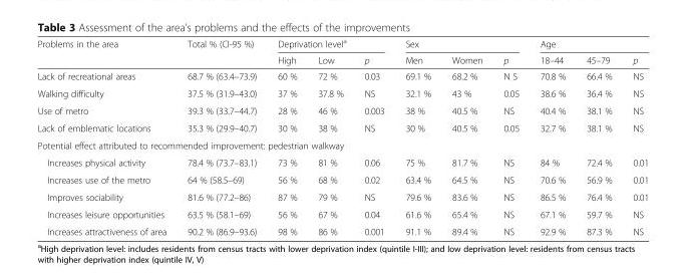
<table><thead><tr><td rowspan="2">Problems in the area</td><td rowspan="2">Total % (CI-95 %)</td><td colspan="3">Deprivation level<sup>a</sup></td><td colspan="3">Sex</td><td colspan="3">Age</td></tr><tr><td>High</td><td>Low</td><td>p</td><td>Men</td><td>Women</td><td>p</td><td>18–44</td><td>45–79</td><td>p</td></tr></thead><tbody><tr><td>Lack of recreational areas</td><td>68.7 % (63.4–73.9)</td><td>60 %</td><td>72 %</td><td>0.03</td><td>69.1 %</td><td>68.2 %</td><td>N S</td><td>70.8 %</td><td>66.4 %</td><td>NS</td></tr><tr><td>Walking difficulty</td><td>37.5 % (31.9–43.0)</td><td>37 %</td><td>37.8 %</td><td>NS</td><td>32.1 %</td><td>43 %</td><td>0.05</td><td>38.6 %</td><td>36.4 %</td><td>NS</td></tr><tr><td>Use of metro</td><td>39.3 % (33.7–44.7)</td><td>28 %</td><td>46 %</td><td>0.003</td><td>38 %</td><td>40.5 %</td><td>NS</td><td>40.4 %</td><td>38.1 %</td><td>NS</td></tr><tr><td>Lack of emblematic locations</td><td>35.3 % (29.9–40.7)</td><td>30 %</td><td>38 %</td><td>NS</td><td>30 %</td><td>40.5 %</td><td>0.05</td><td>32.7 %</td><td>38.1 %</td><td>NS</td></tr><tr><td colspan="11">Potential effect attributed to recommended improvement: pedestrian walkway</td></tr><tr><td>Increases physical activity</td><td>78.4 % (73.7–83.1)</td><td>73 %</td><td>81 %</td><td>0.06</td><td>75 %</td><td>81.7 %</td><td>NS</td><td>84 %</td><td>72.4 %</td><td>0.01</td></tr><tr><td>Increases use of the metro</td><td>64 % (58.5–69)</td><td>56 %</td><td>68 %</td><td>0.02</td><td>63.4 %</td><td>64.5 %</td><td>NS</td><td>70.6 %</td><td>56.9 %</td><td>0.01</td></tr><tr><td>Improves sociability</td><td>81.6 % (77.2–86)</td><td>87 %</td><td>79 %</td><td>NS</td><td>79.6 %</td><td>83.6 %</td><td>NS</td><td>86.5 %</td><td>76.4 %</td><td>0.01</td></tr><tr><td>Increases leisure opportunities</td><td>63.5 % (58.1–69)</td><td>56 %</td><td>67 %</td><td>0.04</td><td>61.6 %</td><td>65.4 %</td><td>NS</td><td>67.1 %</td><td>59.7 %</td><td>NS</td></tr><tr><td>Increases attractiveness of area</td><td>90.2 % (86.9–93.6)</td><td>98 %</td><td>86 %</td><td>0.001</td><td>91.1 %</td><td>89.4 %</td><td>NS</td><td>92.9 %</td><td>87.3 %</td><td>NS</td></tr></tbody></table>